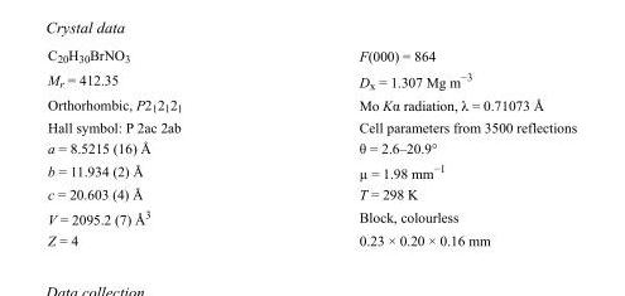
<table><tbody><tr><td>C<sub>20</sub>H<sub>30</sub>BrNO<sub>3</sub></td><td>F(000) = 864</td></tr><tr><td>M<sub>r</sub> = 412.35</td><td>D<sub>x</sub> = 1.307 Mg m<sup>−3</sup></td></tr><tr><td>Orthorhombic, P2<sub>1</sub>2<sub>1</sub>2<sub>1</sub></td><td>Mo Kα radiation, λ = 0.71073 Å</td></tr><tr><td>Hall symbol: P 2ac 2ab</td><td>Cell parameters from 3500 reflections</td></tr><tr><td>a = 8.5215 (16) Å</td><td>θ = 2.6–20.9°</td></tr><tr><td>b = 11.934 (2) Å</td><td>µ = 1.98 mm<sup>−1</sup></td></tr><tr><td>c = 20.603 (4) Å</td><td>T = 298 K</td></tr><tr><td>V = 2095.2 (7) Å<sup>3</sup></td><td>Block, colourless</td></tr><tr><td>Z = 4</td><td>0.23 × 0.20 × 0.16 mm</td></tr></tbody></table>